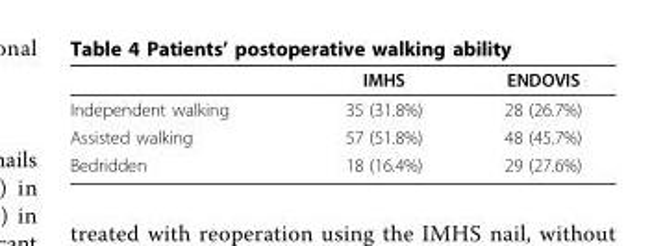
<table><thead><tr><td></td><td>IMHS</td><td>ENDOVIS</td></tr></thead><tbody><tr><td>Independent walking</td><td>35 (31.8%)</td><td>28 (26.7%)</td></tr><tr><td>Assisted walking</td><td>57 (51.8%)</td><td>48 (45.7%)</td></tr><tr><td>Bedridden</td><td>18 (16.4%)</td><td>29 (27.6%)</td></tr></tbody></table>